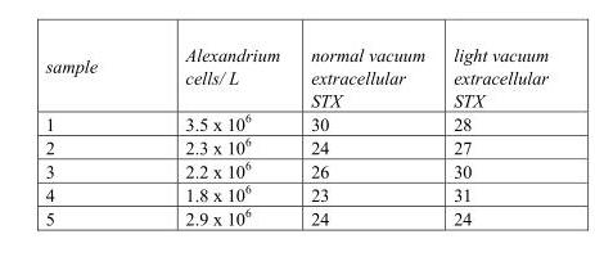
<table><thead><tr><td>sample</td><td>Alexandrium cells/ L</td><td>normal vacuum extracellular STX</td><td>light vacuum extracellular STX</td></tr></thead><tbody><tr><td>1</td><td>3.5 x 10<sup>6</sup></td><td>30</td><td>28</td></tr><tr><td>2</td><td>2.3 x 10<sup>6</sup></td><td>24</td><td>27</td></tr><tr><td>3</td><td>2.2 x 10<sup>6</sup></td><td>26</td><td>30</td></tr><tr><td>4</td><td>1.8 x 10<sup>6</sup></td><td>23</td><td>31</td></tr><tr><td>5</td><td>2.9 x 10<sup>6</sup></td><td>24</td><td>24</td></tr></tbody></table>